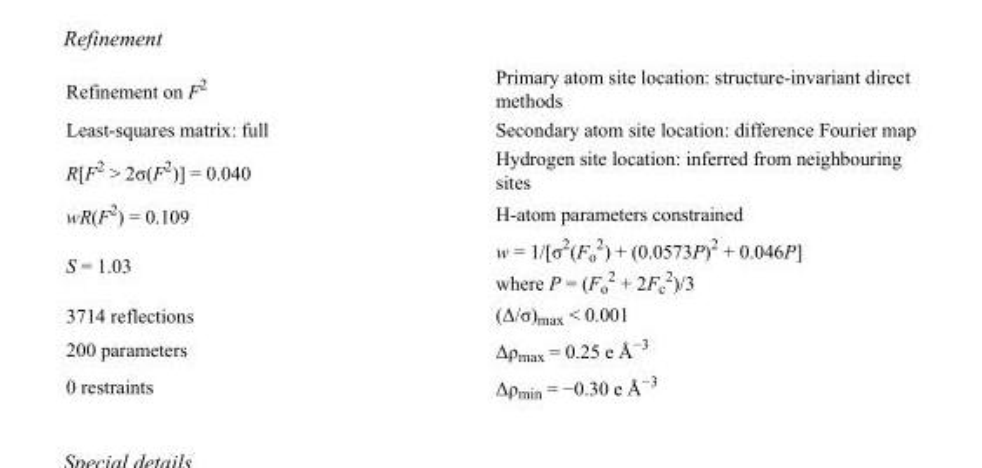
<table><tbody><tr><td>Refinement on F<sup>2</sup></td><td>Primary atom site location: structure-invariant direct methods</td></tr><tr><td>Least-squares matrix: full</td><td>Secondary atom site location: difference Fourier map</td></tr><tr><td>R[F<sup>2</sup> &gt; 2σ(F<sup>2</sup>)] = 0.040</td><td>Hydrogen site location: inferred from neighbouring sites</td></tr><tr><td>wR(F<sup>2</sup>) = 0.109</td><td>H-atom parameters constrained</td></tr><tr><td>S = 1.03</td><td>w = 1/[σ<sup>2</sup>(F<sub>o</sub> <sup>2</sup>) + (0.0573P)<sup>2</sup> + 0.046P] where P = (F<sub>o</sub> <sup>2</sup> + 2F<sub>c</sub> <sup>2</sup>)/3</td></tr><tr><td>3714 reflections</td><td>(Δ/σ)<sub>max</sub> &lt; 0.001</td></tr><tr><td>200 parameters</td><td>Δρ<sub>max</sub> = 0.25 e Å<sup>−3</sup></td></tr><tr><td>0 restraints</td><td>Δρ<sub>min</sub> = −0.30 e Å<sup>−3</sup></td></tr></tbody></table>